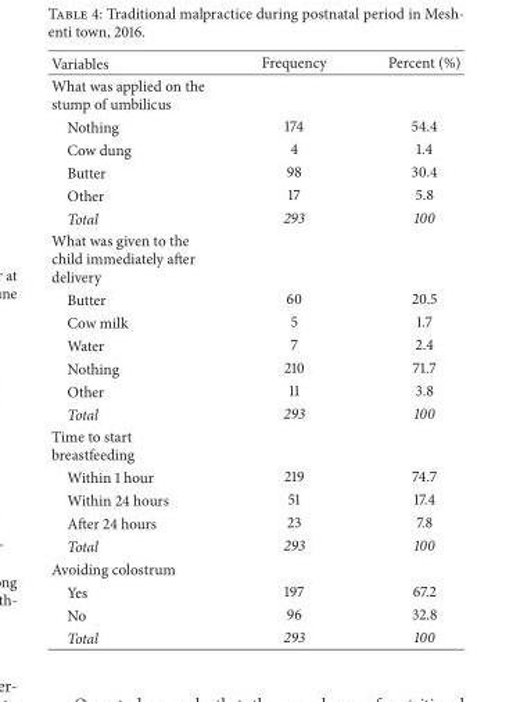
<table><thead><tr><td>Variables</td><td>Frequency</td><td>Percent (%)</td></tr></thead><tbody><tr><td colspan="3">What was applied on the stump of umbilicus</td></tr><tr><td>Nothing</td><td>174</td><td>54.4</td></tr><tr><td>Cow dung</td><td>4</td><td>1.4</td></tr><tr><td>Butter</td><td>98</td><td>30.4</td></tr><tr><td>Other</td><td>17</td><td>5.8</td></tr><tr><td>Total</td><td>293</td><td>100</td></tr><tr><td colspan="3">What was given to the child immediately after delivery</td></tr><tr><td>Butter</td><td>60</td><td>20.5</td></tr><tr><td>Cow milk</td><td>5</td><td>1.7</td></tr><tr><td>Water</td><td>7</td><td>2.4</td></tr><tr><td>Nothing</td><td>210</td><td>71.7</td></tr><tr><td>Other</td><td>11</td><td>3.8</td></tr><tr><td>Total</td><td>293</td><td>100</td></tr><tr><td colspan="3">Time to start breastfeeding</td></tr><tr><td>Within 1 hour</td><td>219</td><td>74.7</td></tr><tr><td>Within 24 hours</td><td>51</td><td>17.4</td></tr><tr><td>After 24 hours</td><td>23</td><td>7.8</td></tr><tr><td>Total</td><td>293</td><td>100</td></tr><tr><td colspan="3">Avoiding colostrum</td></tr><tr><td>Yes</td><td>197</td><td>67.2</td></tr><tr><td>No</td><td>96</td><td>32.8</td></tr><tr><td>Total</td><td>293</td><td>100</td></tr></tbody></table>